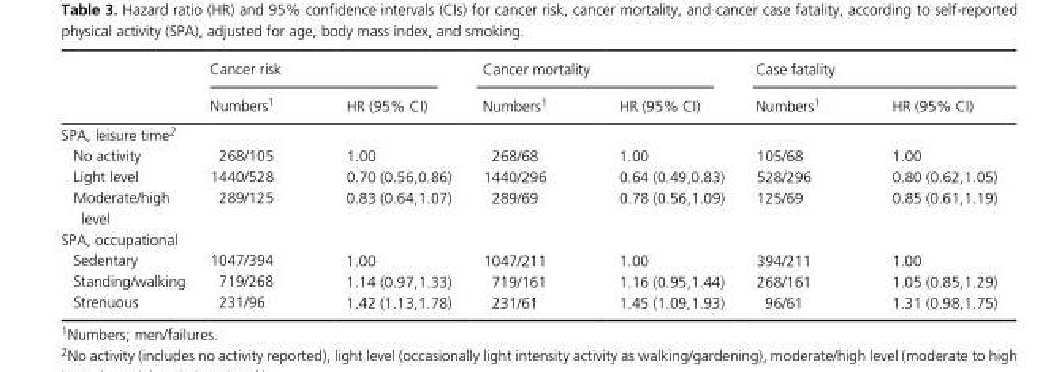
<table><thead><tr><td rowspan="2"></td><td colspan="2">Cancer risk</td><td colspan="2">Cancer mortality</td><td colspan="2">Case fatality</td></tr><tr><td>Numbers1</td><td>HR (95% CI)</td><td>Numbers1</td><td>HR (95% CI)</td><td>Numbers1</td><td>HR (95% CI)</td></tr></thead><tbody><tr><td colspan="7">SPA, leisure time2</td></tr><tr><td>No activity</td><td>268/105</td><td>1.00</td><td>268/68</td><td>1.00</td><td>105/68</td><td>1.00</td></tr><tr><td>Light level</td><td>1440/528</td><td>0.70 (0.56,0.86)</td><td>1440/296</td><td>0.64 (0.49,0.83)</td><td>528/296</td><td>0.80 (0.62,1.05)</td></tr><tr><td>Moderate/high level</td><td>289/125</td><td>0.83 (0.64,1.07)</td><td>289/69</td><td>0.78 (0.56,1.09)</td><td>125/69</td><td>0.85 (0.61,1.19)</td></tr><tr><td colspan="7">SPA, occupational</td></tr><tr><td>Sedentary</td><td>1047/394</td><td>1.00</td><td>1047/211</td><td>1.00</td><td>394/211</td><td>1.00</td></tr><tr><td>Standing/walking</td><td>719/268</td><td>1.14 (0.97,1.33)</td><td>719/161</td><td>1.16 (0.95,1.44)</td><td>268/161</td><td>1.05 (0.85,1.29)</td></tr><tr><td>Strenuous</td><td>231/96</td><td>1.42 (1.13,1.78)</td><td>231/61</td><td>1.45 (1.09,1.93)</td><td>96/61</td><td>1.31 (0.98,1.75)</td></tr></tbody></table>